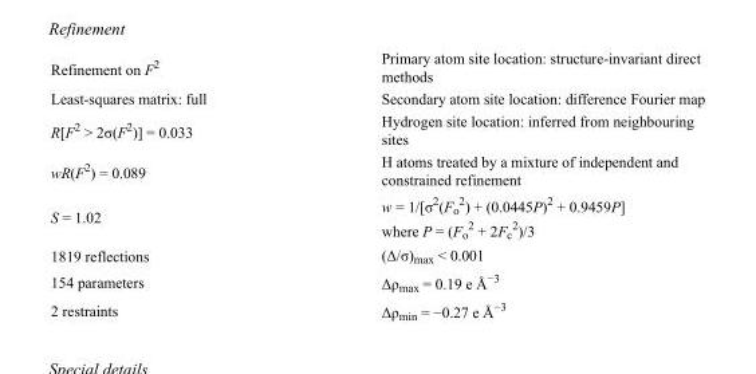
<table><tbody><tr><td>Refinement on F<sup>2</sup></td><td>Primary atom site location: structure-invariant direct methods</td></tr><tr><td>Least-squares matrix: full</td><td>Secondary atom site location: difference Fourier map</td></tr><tr><td>R[F<sup>2</sup> &gt; 2σ(F<sup>2</sup>)] = 0.033</td><td>Hydrogen site location: inferred from neighbouring sites</td></tr><tr><td>wR(F<sup>2</sup>) = 0.089</td><td>H atoms treated by a mixture of independent and constrained refinement</td></tr><tr><td>S = 1.02</td><td>w = 1/[σ<sup>2</sup>(F<sub>o</sub> <sup>2</sup>) + (0.0445P)<sup>2</sup> + 0.9459P] where P = (F<sub>o</sub> <sup>2</sup> + 2F<sub>c</sub> <sup>2</sup>)/3</td></tr><tr><td>1819 reflections</td><td>(Δ/σ)<sub>max</sub> &lt; 0.001</td></tr><tr><td>154 parameters</td><td>Δρ<sub>max</sub> = 0.19 e Å<sup>−3</sup></td></tr><tr><td>2 restraints</td><td>Δρ<sub>min</sub> = −0.27 e Å<sup>−3</sup></td></tr></tbody></table>